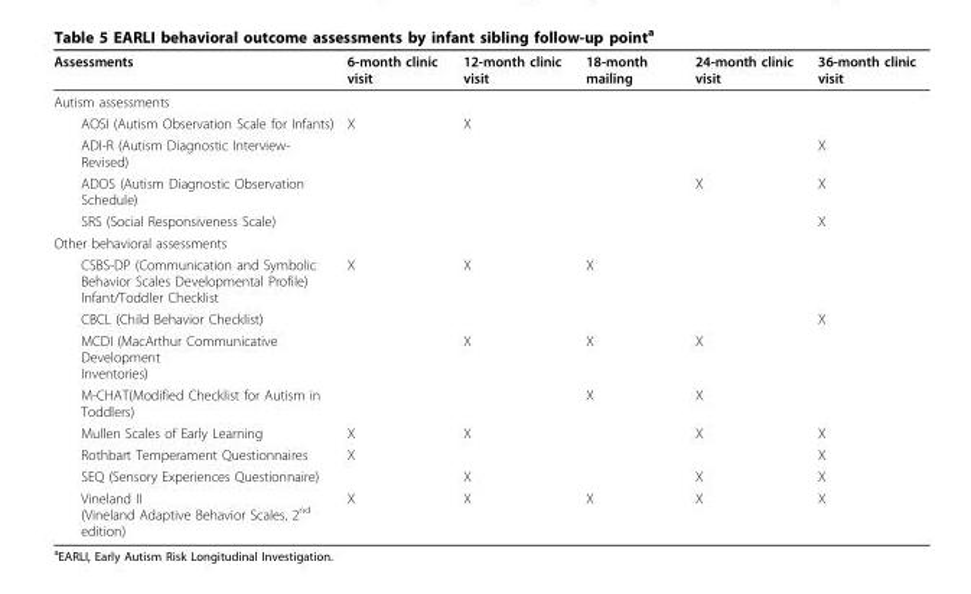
<table><thead><tr><td>Assessments</td><td>6-month clinic visit</td><td>12-month clinic visit</td><td>18-month mailing</td><td>24-month clinic visit</td><td>36-month clinic visit</td></tr></thead><tbody><tr><td colspan="6">Autism assessments</td></tr><tr><td>AOSI (Autism Observation Scale for Infants)</td><td>X</td><td>X</td><td></td><td></td><td></td></tr><tr><td>ADI-R (Autism Diagnostic Interview- Revised)</td><td></td><td></td><td></td><td></td><td>X</td></tr><tr><td>ADOS (Autism Diagnostic Observation Schedule)</td><td></td><td></td><td></td><td>X</td><td>X</td></tr><tr><td>SRS (Social Responsiveness Scale)</td><td></td><td></td><td></td><td></td><td>X</td></tr><tr><td colspan="6">Other behavioral assessments</td></tr><tr><td>CSBS-DP (Communication and Symbolic Behavior Scales Developmental Profile) Infant/Toddler Checklist</td><td>X</td><td>X</td><td>X</td><td></td><td></td></tr><tr><td>CBCL (Child Behavior Checklist)</td><td></td><td></td><td></td><td></td><td>X</td></tr><tr><td>MCDI (MacArthur Communicative Development Inventories)</td><td></td><td>X</td><td>X</td><td>X</td><td></td></tr><tr><td>M-CHAT(Modified Checklist for Autism in Toddlers)</td><td></td><td></td><td>X</td><td>X</td><td></td></tr><tr><td>Mullen Scales of Early Learning</td><td>X</td><td>X</td><td></td><td>X</td><td>X</td></tr><tr><td>Rothbart Temperament Questionnaires</td><td>X</td><td></td><td></td><td></td><td>X</td></tr><tr><td>SEQ (Sensory Experiences Questionnaire)</td><td></td><td>X</td><td></td><td>X</td><td>X</td></tr><tr><td>Vineland II (Vineland Adaptive Behavior Scales, 2<sup>nd</sup> edition)</td><td>X</td><td>X</td><td>X</td><td>X</td><td>X</td></tr></tbody></table>